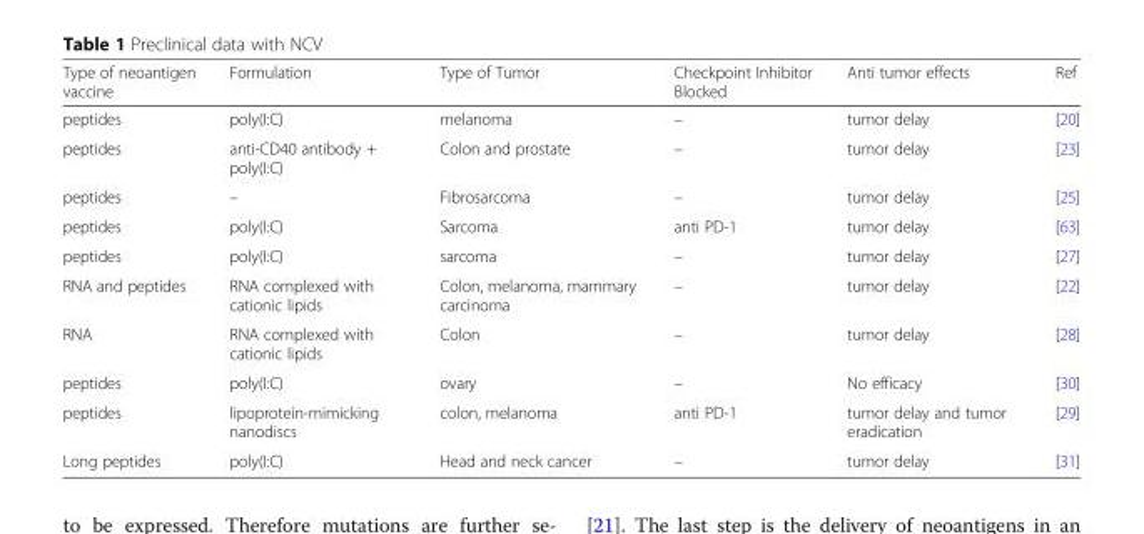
<table><thead><tr><td>Type of neoantigen vaccine</td><td>Formulation</td><td>Type of Tumor</td><td>Checkpoint Inhibitor Blocked</td><td>Anti tumor effects</td><td>Ref</td></tr></thead><tbody><tr><td>peptides</td><td>poly(I:C)</td><td>melanoma</td><td>–</td><td>tumor delay</td><td>[20]</td></tr><tr><td>peptides</td><td>anti-CD40 antibody + poly(I:C)</td><td>Colon and prostate</td><td>–</td><td>tumor delay</td><td>[23]</td></tr><tr><td>peptides</td><td>–</td><td>Fibrosarcoma</td><td>–</td><td>tumor delay</td><td>[25]</td></tr><tr><td>peptides</td><td>poly(I:C)</td><td>Sarcoma</td><td>anti PD-1</td><td>tumor delay</td><td>[63]</td></tr><tr><td>peptides</td><td>poly(I:C)</td><td>sarcoma</td><td>–</td><td>tumor delay</td><td>[27]</td></tr><tr><td>RNA and peptides</td><td>RNA complexed with cationic lipids</td><td>Colon, melanoma, mammary carcinoma</td><td>–</td><td>tumor delay</td><td>[22]</td></tr><tr><td>RNA</td><td>RNA complexed with cationic lipids</td><td>Colon</td><td>–</td><td>tumor delay</td><td>[28]</td></tr><tr><td>peptides</td><td>poly(I:C)</td><td>ovary</td><td>–</td><td>No efficacy</td><td>[30]</td></tr><tr><td>peptides</td><td>lipoprotein-mimicking nanodiscs</td><td>colon, melanoma</td><td>anti PD-1</td><td>tumor delay and tumor eradication</td><td>[29]</td></tr><tr><td>Long peptides</td><td>poly(I:C)</td><td>Head and neck cancer</td><td>–</td><td>tumor delay</td><td>[31]</td></tr></tbody></table>